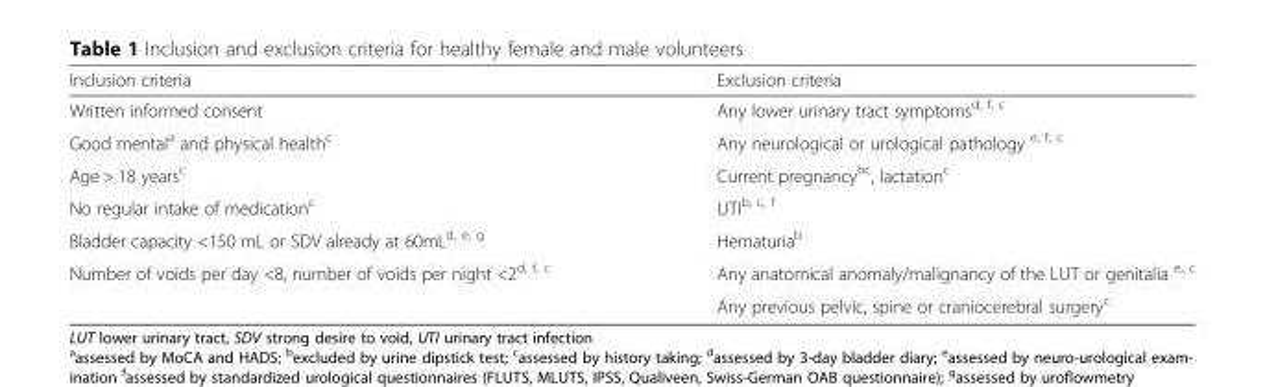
<table><thead><tr><td>Inclusion criteria</td><td>Exclusion criteria</td></tr></thead><tbody><tr><td>Written informed consent</td><td>Any lower urinary tract symptoms<sup>d, f, c</sup></td></tr><tr><td>Good mental<sup>a</sup> and physical health<sup>c</sup></td><td>Any neurological or urological pathology <sup>e, f, c</sup></td></tr><tr><td>Age &gt; 18 years<sup>c</sup></td><td>Current pregnancy<sup>bc</sup>, lactation<sup>c</sup></td></tr><tr><td>No regular intake of medication<sup>c</sup></td><td>UTI<sup>b, c, f</sup></td></tr><tr><td>Bladder capacity &lt;150 mL or SDV already at 60mL<sup>d, e, g</sup></td><td>Hematuria<sup>b</sup></td></tr><tr><td rowspan="2">Number of voids per day &lt;8, number of voids per night &lt;2<sup>d, f, c</sup></td><td>Any anatomical anomaly/malignancy of the LUT or genitalia <sup>e, c</sup></td></tr><tr><td>Any previous pelvic, spine or craniocerebral surgery<sup>c</sup></td></tr></tbody></table>